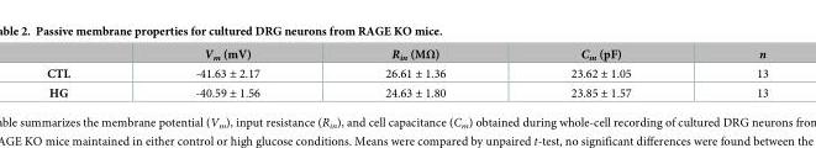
<table><thead><tr><td></td><td>V<sub>m</sub> (mV)</td><td>R<sub>in</sub> (MΩ)</td><td>C<sub>m</sub> (pF)</td><td>n</td></tr></thead><tbody><tr><td>CTL</td><td>-41.63 ± 2.17</td><td>26.61 ± 1.36</td><td>23.62 ± 1.05</td><td>13</td></tr><tr><td>HG</td><td>-40.59 ± 1.56</td><td>24.63 ± 1.80</td><td>23.85 ± 1.57</td><td>13</td></tr></tbody></table>